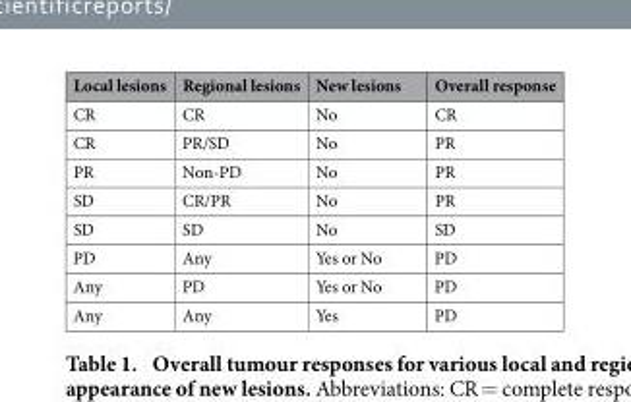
<table><thead><tr><td>Local lesions</td><td>Regional lesions</td><td>New lesions</td><td>Overall response</td></tr></thead><tbody><tr><td>CR</td><td>CR</td><td>No</td><td>CR</td></tr><tr><td>CR</td><td>PR/SD</td><td>No</td><td>PR</td></tr><tr><td>PR</td><td>Non-PD</td><td>No</td><td>PR</td></tr><tr><td>SD</td><td>CR/PR</td><td>No</td><td>PR</td></tr><tr><td>SD</td><td>SD</td><td>No</td><td>SD</td></tr><tr><td>PD</td><td>Any</td><td>Yes or No</td><td>PD</td></tr><tr><td>Any</td><td>PD</td><td>Yes or No</td><td>PD</td></tr><tr><td>Any</td><td>Any</td><td>Yes</td><td>PD</td></tr></tbody></table>